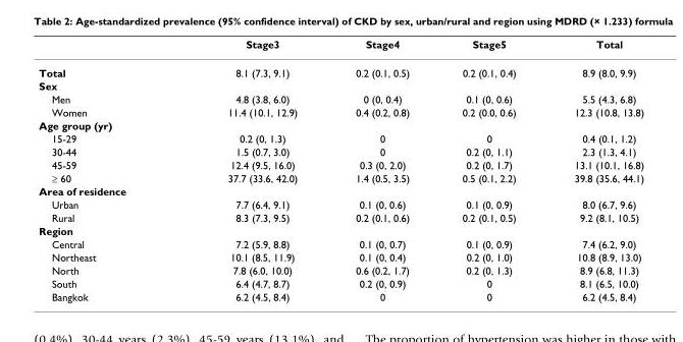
<table><thead><tr><td></td><td>Stage3</td><td>Stage4</td><td>Stage5</td><td>Total</td></tr></thead><tbody><tr><td>Total</td><td>8.1 (7.3, 9.1)</td><td>0.2 (0.1, 0.5)</td><td>0.2 (0.1, 0.4)</td><td>8.9 (8.0, 9.9)</td></tr><tr><td colspan="5">Sex</td></tr><tr><td>Men</td><td>4.8 (3.8, 6.0)</td><td>0 (0, 0.4)</td><td>0.1 (0, 0.6)</td><td>5.5 (4.3, 6.8)</td></tr><tr><td>Women</td><td>11.4 (10.1, 12.9)</td><td>0.4 (0.2, 0.8)</td><td>0.2 (0.0, 0.6)</td><td>12.3 (10.8, 13.8)</td></tr><tr><td colspan="5">Age group (yr)</td></tr><tr><td>15-29</td><td>0.2 (0, 1.3)</td><td>0</td><td>0</td><td>0.4 (0.1, 1.2)</td></tr><tr><td>30-44</td><td>1.5 (0.7, 3.0)</td><td>0</td><td>0.2 (0, 1.1)</td><td>2.3 (1.3, 4.1)</td></tr><tr><td>45-59</td><td>12.4 (9.5, 16.0)</td><td>0.3 (0, 2.0)</td><td>0.2 (0, 1.7)</td><td>13.1 (10.1, 16.8)</td></tr><tr><td>≥ 60</td><td>37.7 (33.6, 42.0)</td><td>1.4 (0.5, 3.5)</td><td>0.5 (0.1, 2.2)</td><td>39.8 (35.6, 44.1)</td></tr><tr><td colspan="5">Area of residence</td></tr><tr><td>Urban</td><td>7.7 (6.4, 9.1)</td><td>0.1 (0, 0.6)</td><td>0.1 (0, 0.9)</td><td>8.0 (6.7, 9.6)</td></tr><tr><td>Rural</td><td>8.3 (7.3, 9.5)</td><td>0.2 (0.1, 0.6)</td><td>0.2 (0.1, 0.5)</td><td>9.2 (8.1, 10.5)</td></tr><tr><td colspan="5">Region</td></tr><tr><td>Central</td><td>7.2 (5.9, 8.8)</td><td>0.1 (0, 0.7)</td><td>0.1 (0, 0.9)</td><td>7.4 (6.2, 9.0)</td></tr><tr><td>Northeast</td><td>10.1 (8.5, 11.9)</td><td>0.1 (0, 0.4)</td><td>0.2 (0, 1.0)</td><td>10.8 (8.9, 13.0)</td></tr><tr><td>North</td><td>7.8 (6.0, 10.0)</td><td>0.6 (0.2, 1.7)</td><td>0.2 (0, 1.3)</td><td>8.9 (6.8, 11.3)</td></tr><tr><td>South</td><td>6.4 (4.7, 8.7)</td><td>0.2 (0, 0.9)</td><td>0</td><td>8.1 (6.5, 10.0)</td></tr><tr><td>Bangkok</td><td>6.2 (4.5, 8.4)</td><td>0</td><td>0</td><td>6.2 (4.5, 8.4)</td></tr></tbody></table>